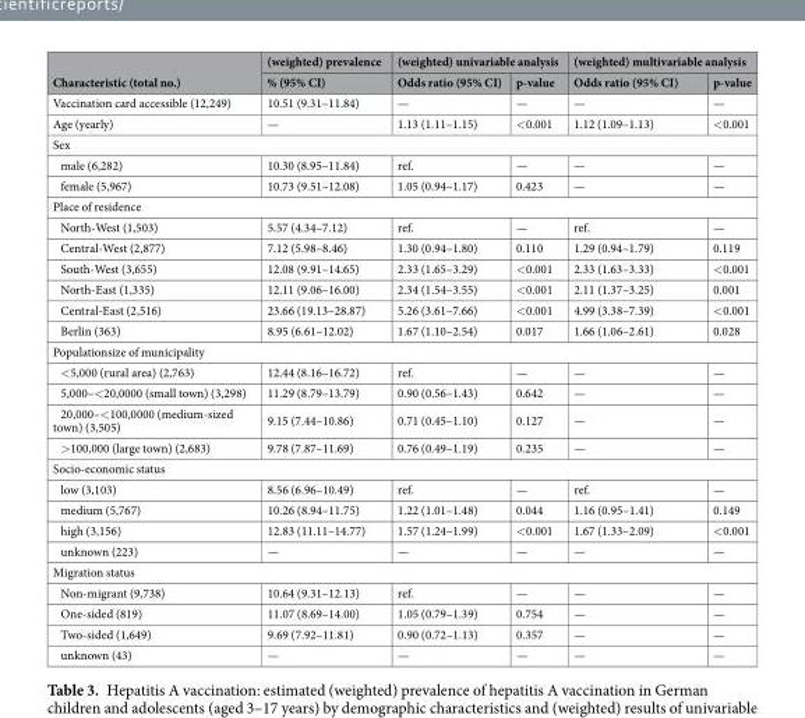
<table><thead><tr><td rowspan="2">Characteristic (total no.)</td><td rowspan="2">(weighted) prevalence % (95% CI)</td><td colspan="2">(weighted) univariable analysis</td><td colspan="2">(weighted) multivariable analysis</td></tr><tr><td>Odds ratio (95% CI)</td><td>p-value</td><td>Odds ratio (95% CI)</td><td>p-value</td></tr></thead><tbody><tr><td>Vaccination card accessible (12,249)</td><td>10.51 (9.31–11.84)</td><td>—</td><td>—</td><td>—</td><td>—</td></tr><tr><td>Age (yearly)</td><td>—</td><td>1.13 (1.11–1.15)</td><td>&lt;0.001</td><td>1.12 (1.09–1.13)</td><td>&lt;0.001</td></tr><tr><td colspan="6">Sex</td></tr><tr><td>male (6,282)</td><td>10.30 (8.95–11.84)</td><td>ref.</td><td>—</td><td>—</td><td>—</td></tr><tr><td>female (5,967)</td><td>10.73 (9.51–12.08)</td><td>1.05 (0.94–1.17)</td><td>0.423</td><td>—</td><td>—</td></tr><tr><td colspan="6">Place of residence</td></tr><tr><td>North-West (1,503)</td><td>5.57 (4.34–7.12)</td><td>ref.</td><td>—</td><td>ref.</td><td>—</td></tr><tr><td>Central-West (2,877)</td><td>7.12 (5.98–8.46)</td><td>1.30 (0.94–1.80)</td><td>0.110</td><td>1.29 (0.94–1.79)</td><td>0.119</td></tr><tr><td>South-West (3,655)</td><td>12.08 (9.91–14.65)</td><td>2.33 (1.65–3.29)</td><td>&lt;0.001</td><td>2.33 (1.63–3.33)</td><td>&lt;0.001</td></tr><tr><td>North-East (1,335)</td><td>12.11 (9.06–16.00)</td><td>2.34 (1.54–3.55)</td><td>&lt;0.001</td><td>2.11 (1.37–3.25)</td><td>0.001</td></tr><tr><td>Central-East (2,516)</td><td>23.66 (19.13–28.87)</td><td>5.26 (3.61–7.66)</td><td>&lt;0.001</td><td>4.99 (3.38–7.39)</td><td>&lt;0.001</td></tr><tr><td>Berlin (363)</td><td>8.95 (6.61–12.02)</td><td>1.67 (1.10–2.54)</td><td>0.017</td><td>1.66 (1.06–2.61)</td><td>0.028</td></tr><tr><td colspan="6">Populationsize of municipality</td></tr><tr><td>&lt;5,000 (rural area) (2,763)</td><td>12.44 (8.16–16.72)</td><td>ref.</td><td>—</td><td>—</td><td>—</td></tr><tr><td>5,000–&lt;20,0000 (small town) (3,298)</td><td>11.29 (8.79–13.79)</td><td>0.90 (0.56–1.43)</td><td>0.642</td><td>—</td><td>—</td></tr><tr><td>20,000–&lt;100,0000 (medium-sized town) (3,505)</td><td>9.15 (7.44–10.86)</td><td>0.71 (0.45–1.10)</td><td>0.127</td><td>—</td><td>—</td></tr><tr><td>&gt;100,000 (large town) (2,683)</td><td>9.78 (7.87–11.69)</td><td>0.76 (0.49–1.19)</td><td>0.235</td><td>—</td><td>—</td></tr><tr><td colspan="6">Socio-economic status</td></tr><tr><td>low (3,103)</td><td>8.56 (6.96–10.49)</td><td>ref.</td><td>—</td><td>ref.</td><td>—</td></tr><tr><td>medium (5,767)</td><td>10.26 (8.94–11.75)</td><td>1.22 (1.01–1.48)</td><td>0.044</td><td>1.16 (0.95–1.41)</td><td>0.149</td></tr><tr><td>high (3,156)</td><td>12.83 (11.11–14.77)</td><td>1.57 (1.24–1.99)</td><td>&lt;0.001</td><td>1.67 (1.33–2.09)</td><td>&lt;0.001</td></tr><tr><td>unknown (223)</td><td>—</td><td>—</td><td>—</td><td>—</td><td>—</td></tr><tr><td colspan="6">Migration status</td></tr><tr><td>Non-migrant (9,738)</td><td>10.64 (9.31–12.13)</td><td>ref.</td><td>—</td><td>—</td><td>—</td></tr><tr><td>One-sided (819)</td><td>11.07 (8.69–14.00)</td><td>1.05 (0.79–1.39)</td><td>0.754</td><td>—</td><td>—</td></tr><tr><td>Two-sided (1,649)</td><td>9.69 (7.92–11.81)</td><td>0.90 (0.72–1.13)</td><td>0.357</td><td>—</td><td>—</td></tr><tr><td>unknown (43)</td><td>—</td><td>—</td><td>—</td><td>—</td><td>—</td></tr></tbody></table>